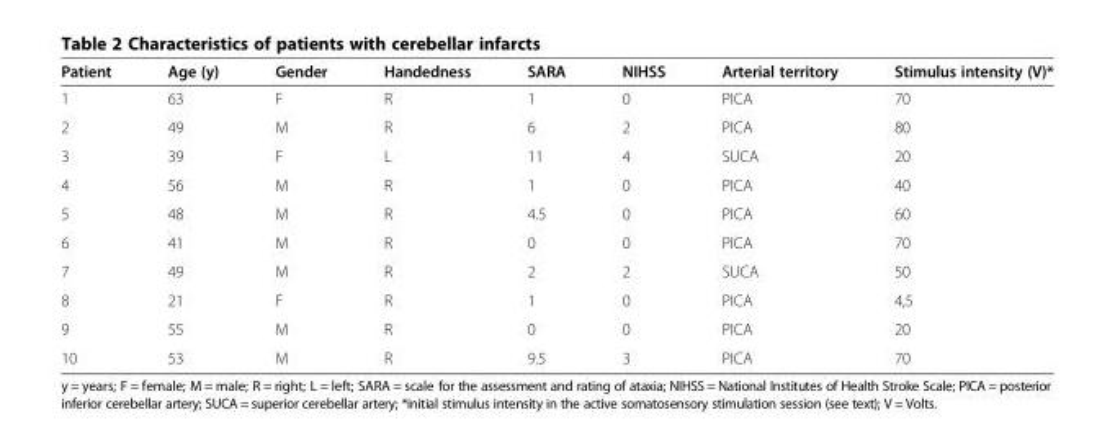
<table><thead><tr><td>Patient</td><td>Age (y)</td><td>Gender</td><td>Handedness</td><td>SARA</td><td>NIHSS</td><td>Arterial territory</td><td>Stimulus intensity (V)*</td></tr></thead><tbody><tr><td>1</td><td>63</td><td>F</td><td>R</td><td>1</td><td>0</td><td>PICA</td><td>70</td></tr><tr><td>2</td><td>49</td><td>M</td><td>R</td><td>6</td><td>2</td><td>PICA</td><td>80</td></tr><tr><td>3</td><td>39</td><td>F</td><td>L</td><td>11</td><td>4</td><td>SUCA</td><td>20</td></tr><tr><td>4</td><td>56</td><td>M</td><td>R</td><td>1</td><td>0</td><td>PICA</td><td>40</td></tr><tr><td>5</td><td>48</td><td>M</td><td>R</td><td>4.5</td><td>0</td><td>PICA</td><td>60</td></tr><tr><td>6</td><td>41</td><td>M</td><td>R</td><td>0</td><td>0</td><td>PICA</td><td>70</td></tr><tr><td>7</td><td>49</td><td>M</td><td>R</td><td>2</td><td>2</td><td>SUCA</td><td>50</td></tr><tr><td>8</td><td>21</td><td>F</td><td>R</td><td>1</td><td>0</td><td>PICA</td><td>4,5</td></tr><tr><td>9</td><td>55</td><td>M</td><td>R</td><td>0</td><td>0</td><td>PICA</td><td>20</td></tr><tr><td>10</td><td>53</td><td>M</td><td>R</td><td>9.5</td><td>3</td><td>PICA</td><td>70</td></tr></tbody></table>